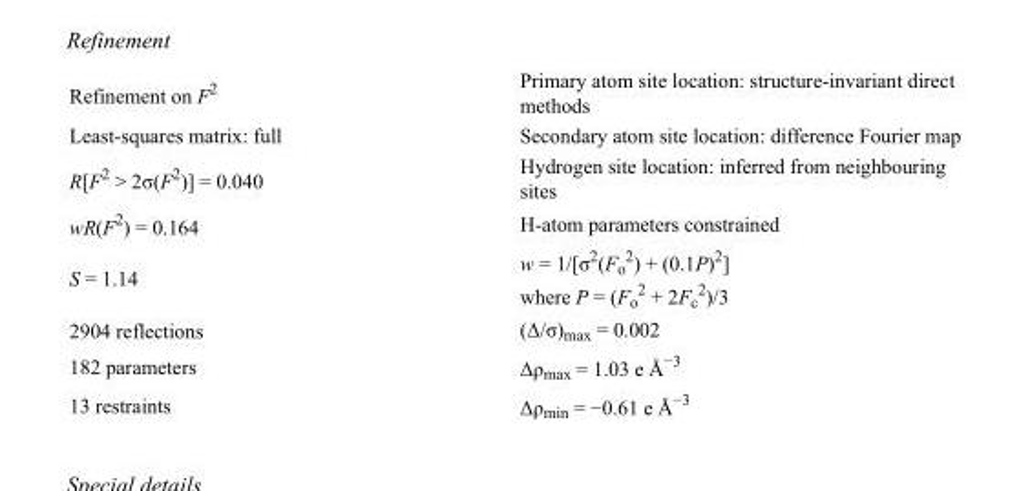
<table><tbody><tr><td>Refinement on F<sup>2</sup></td><td>Primary atom site location: structure-invariant direct methods</td></tr><tr><td>Least-squares matrix: full</td><td>Secondary atom site location: difference Fourier map</td></tr><tr><td>R[F<sup>2</sup> &gt; 2σ(F<sup>2</sup>)] = 0.040</td><td>Hydrogen site location: inferred from neighbouring sites</td></tr><tr><td>wR(F<sup>2</sup>) = 0.164</td><td>H-atom parameters constrained</td></tr><tr><td>S = 1.14</td><td>w = 1/[σ<sup>2</sup>(F<sub>o</sub> <sup>2</sup>) + (0.1P)<sup>2</sup>] where P = (F<sub>o</sub> <sup>2</sup> + 2F<sub>c</sub> <sup>2</sup>)/3</td></tr><tr><td>2904 reflections</td><td>(Δ/σ)<sub>max</sub> = 0.002</td></tr><tr><td>182 parameters</td><td>Δρ<sub>max</sub> = 1.03 e Å<sup>−3</sup></td></tr><tr><td>13 restraints</td><td>Δρ<sub>min</sub> = −0.61 e Å<sup>−3</sup></td></tr></tbody></table>